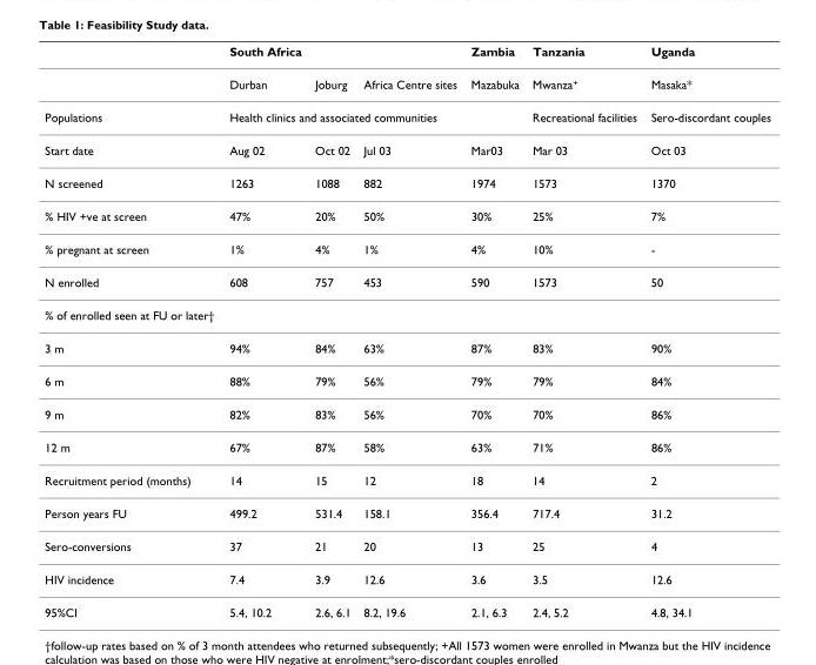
<table><thead><tr><td></td><td>South Africa</td><td></td><td></td><td>Zambia</td><td>Tanzania</td><td>Uganda</td></tr></thead><tbody><tr><td></td><td>Durban</td><td>Joburg</td><td>Africa Centre sites</td><td>Mazabuka</td><td>Mwanza<sup>+</sup></td><td>Masaka*</td></tr><tr><td>Populations</td><td colspan="3">Health clinics and associated communities</td><td></td><td>Recreational facilities</td><td>Sero-discordant couples</td></tr><tr><td>Start date</td><td>Aug 02</td><td>Oct 02</td><td>Jul 03</td><td>Mar03</td><td>Mar 03</td><td>Oct 03</td></tr><tr><td>N screened</td><td>1263</td><td>1088</td><td>882</td><td>1974</td><td>1573</td><td>1370</td></tr><tr><td>% HIV +ve at screen</td><td>47%</td><td>20%</td><td>50%</td><td>30%</td><td>25%</td><td>7%</td></tr><tr><td>% pregnant at screen</td><td>1%</td><td>4%</td><td>1%</td><td>4%</td><td>10%</td><td>-</td></tr><tr><td>N enrolled</td><td>608</td><td>757</td><td>453</td><td>590</td><td>1573</td><td>50</td></tr><tr><td colspan="7">% of enrolled seen at FU or later†</td></tr><tr><td>3 m</td><td>94%</td><td>84%</td><td>63%</td><td>87%</td><td>83%</td><td>90%</td></tr><tr><td>6 m</td><td>88%</td><td>79%</td><td>56%</td><td>79%</td><td>79%</td><td>84%</td></tr><tr><td>9 m</td><td>82%</td><td>83%</td><td>56%</td><td>70%</td><td>70%</td><td>86%</td></tr><tr><td>12 m</td><td>67%</td><td>87%</td><td>58%</td><td>63%</td><td>71%</td><td>86%</td></tr><tr><td>Recruitment period (months)</td><td>14</td><td>15</td><td>12</td><td>18</td><td>14</td><td>2</td></tr><tr><td>Person years FU</td><td>499.2</td><td>531.4</td><td>158.1</td><td>356.4</td><td>717.4</td><td>31.2</td></tr><tr><td>Sero-conversions</td><td>37</td><td>21</td><td>20</td><td>13</td><td>25</td><td>4</td></tr><tr><td>HIV incidence</td><td>7.4</td><td>3.9</td><td>12.6</td><td>3.6</td><td>3.5</td><td>12.6</td></tr><tr><td>95%CI</td><td>5.4, 10.2</td><td>2.6, 6.1</td><td>8.2, 19.6</td><td>2.1, 6.3</td><td>2.4, 5.2</td><td>4.8, 34.1</td></tr></tbody></table>